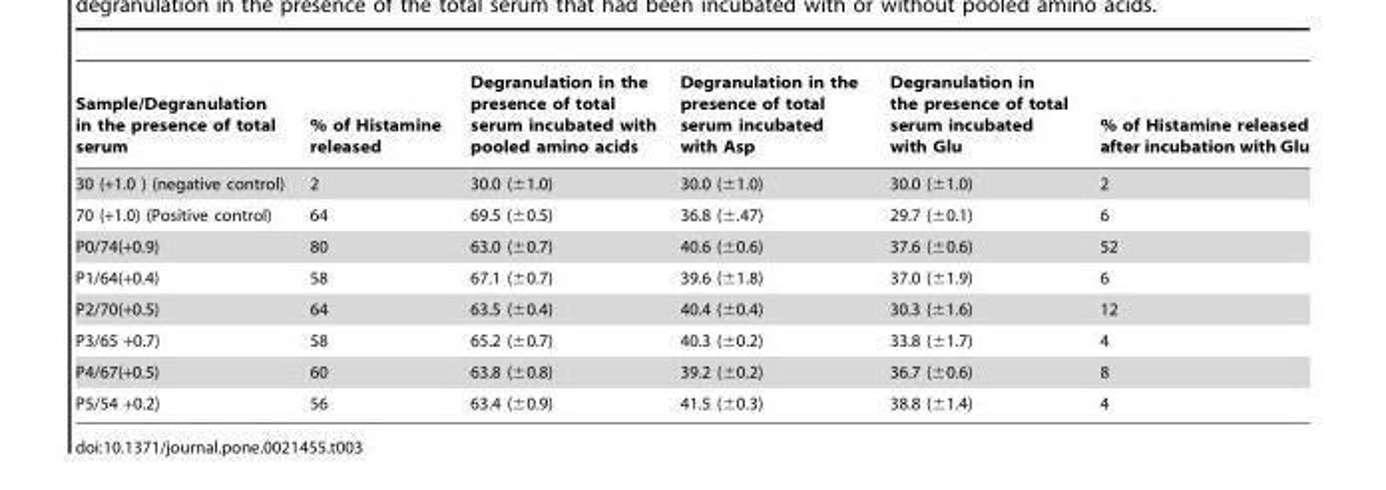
<table><thead><tr><td>Sample/Degranulation in the presence of total serum</td><td>% of Histamine released</td><td>Degranulation in the presence of total serum incubated with pooled amino acids</td><td>Degranulation in the presence of total serum incubated with Asp</td><td>Degranulation in the presence of total serum incubated with Glu</td><td>% of Histamine released after incubation with Glu</td></tr></thead><tbody><tr><td>30 (+1.0 ) (negative control)</td><td>2</td><td>30.0 (±1.0)</td><td>30.0 (±1.0)</td><td>30.0 (±1.0)</td><td>2</td></tr><tr><td>70 (+1.0) (Positive control)</td><td>64</td><td>69.5 (±0.5)</td><td>36.8 (±.47)</td><td>29.7 (±0.1)</td><td>6</td></tr><tr><td>P0/74(+0.9)</td><td>80</td><td>63.0 (±0.7)</td><td>40.6 (±0.6)</td><td>37.6 (±0.6)</td><td>52</td></tr><tr><td>P1/64(+0.4)</td><td>58</td><td>67.1 (±0.7)</td><td>39.6 (±1.8)</td><td>37.0 (±1.9)</td><td>6</td></tr><tr><td>P2/70(+0.5)</td><td>64</td><td>63.5 (±0.4)</td><td>40.4 (±0.4)</td><td>30.3 (±1.6)</td><td>12</td></tr><tr><td>P3/65 +0.7)</td><td>58</td><td>65.2 (±0.7)</td><td>40.3 (±0.2)</td><td>33.8 (±1.7)</td><td>4</td></tr><tr><td>P4/67(+0.5)</td><td>60</td><td>63.8 (±0.8)</td><td>39.2 (±0.2)</td><td>36.7 (±0.6)</td><td>8</td></tr><tr><td>P5/54 +0.2)</td><td>56</td><td>63.4 (±0.9)</td><td>41.5 (±0.3)</td><td>38.8 (±1.4)</td><td>4</td></tr></tbody></table>